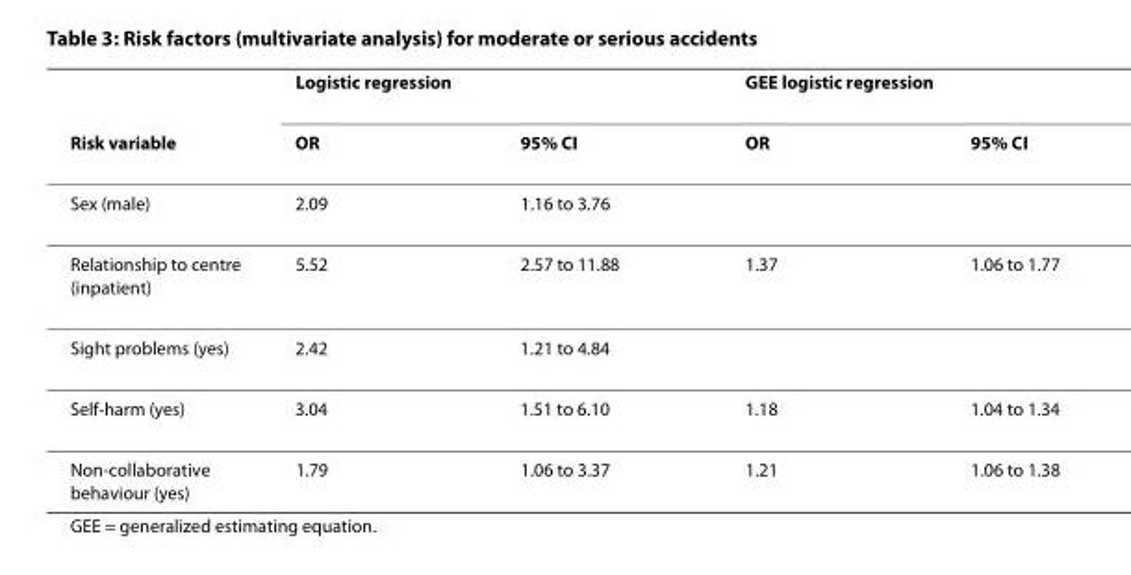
<table><thead><tr><td rowspan="2">Risk variable</td><td colspan="2">Logistic regression</td><td colspan="2">GEE logistic regression</td></tr><tr><td>OR</td><td>95% CI</td><td>OR</td><td>95% CI</td></tr></thead><tbody><tr><td>Sex (male)</td><td>2.09</td><td>1.16 to 3.76</td><td></td><td></td></tr><tr><td>Relationship to centre (inpatient)</td><td>5.52</td><td>2.57 to 11.88</td><td>1.37</td><td>1.06 to 1.77</td></tr><tr><td>Sight problems (yes)</td><td>2.42</td><td>1.21 to 4.84</td><td></td><td></td></tr><tr><td>Self-harm (yes)</td><td>3.04</td><td>1.51 to 6.10</td><td>1.18</td><td>1.04 to 1.34</td></tr><tr><td>Non-collaborative behaviour (yes)</td><td>1.79</td><td>1.06 to 3.37</td><td>1.21</td><td>1.06 to 1.38</td></tr></tbody></table>